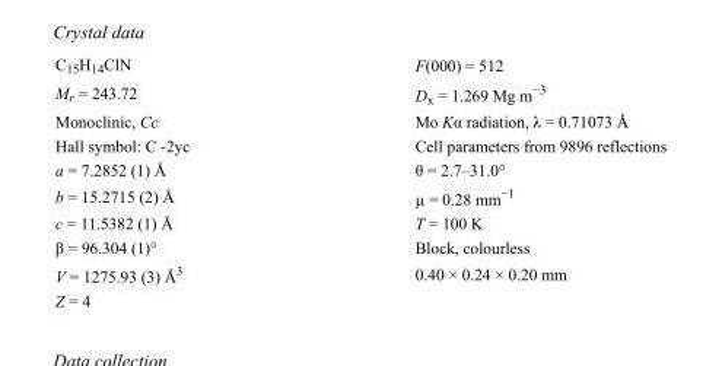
<table><tbody><tr><td>C<sub>15</sub>H<sub>14</sub>ClN</td><td>F(000) = 512</td></tr><tr><td>M<sub>r</sub> = 243.72</td><td>D<sub>x</sub> = 1.269 Mg m<sup>−3</sup></td></tr><tr><td>Monoclinic, Cc</td><td>Mo Kα radiation, λ = 0.71073 Å</td></tr><tr><td>Hall symbol: C -2yc</td><td>Cell parameters from 9896 reflections</td></tr><tr><td>a = 7.2852 (1) Å</td><td>θ = 2.7–31.0°</td></tr><tr><td>b = 15.2715 (2) Å</td><td>µ = 0.28 mm<sup>−1</sup></td></tr><tr><td>c = 11.5382 (1) Å</td><td>T = 100 K</td></tr><tr><td>β = 96.304 (1)°</td><td>Block, colourless</td></tr><tr><td>V = 1275.93 (3) Å<sup>3</sup></td><td>0.40 × 0.24 × 0.20 mm</td></tr><tr><td>Z = 4</td><td></td></tr></tbody></table>